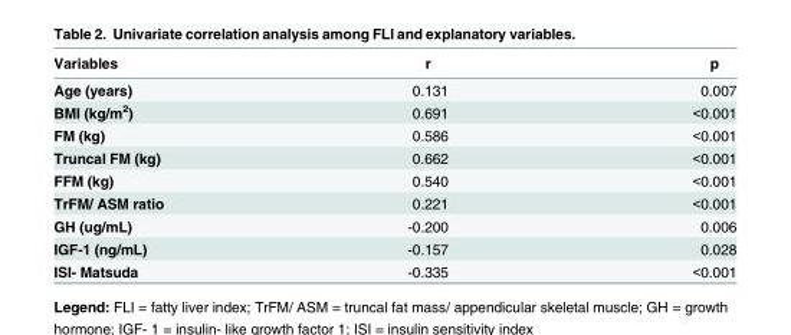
<table><thead><tr><td>Variables</td><td>r</td><td>p</td></tr></thead><tbody><tr><td>Age (years)</td><td>0.131</td><td>0.007</td></tr><tr><td>BMI (kg/m<sup>2</sup>)</td><td>0.691</td><td>&lt;0.001</td></tr><tr><td>FM (kg)</td><td>0.586</td><td>&lt;0.001</td></tr><tr><td>Truncal FM (kg)</td><td>0.662</td><td>&lt;0.001</td></tr><tr><td>FFM (kg)</td><td>0.540</td><td>&lt;0.001</td></tr><tr><td>TrFM/ ASM ratio</td><td>0.221</td><td>&lt;0.001</td></tr><tr><td>GH (ug/mL)</td><td>-0.200</td><td>0.006</td></tr><tr><td>IGF-1 (ng/mL)</td><td>-0.157</td><td>0.028</td></tr><tr><td>ISI- Matsuda</td><td>-0.335</td><td>&lt;0.001</td></tr></tbody></table>